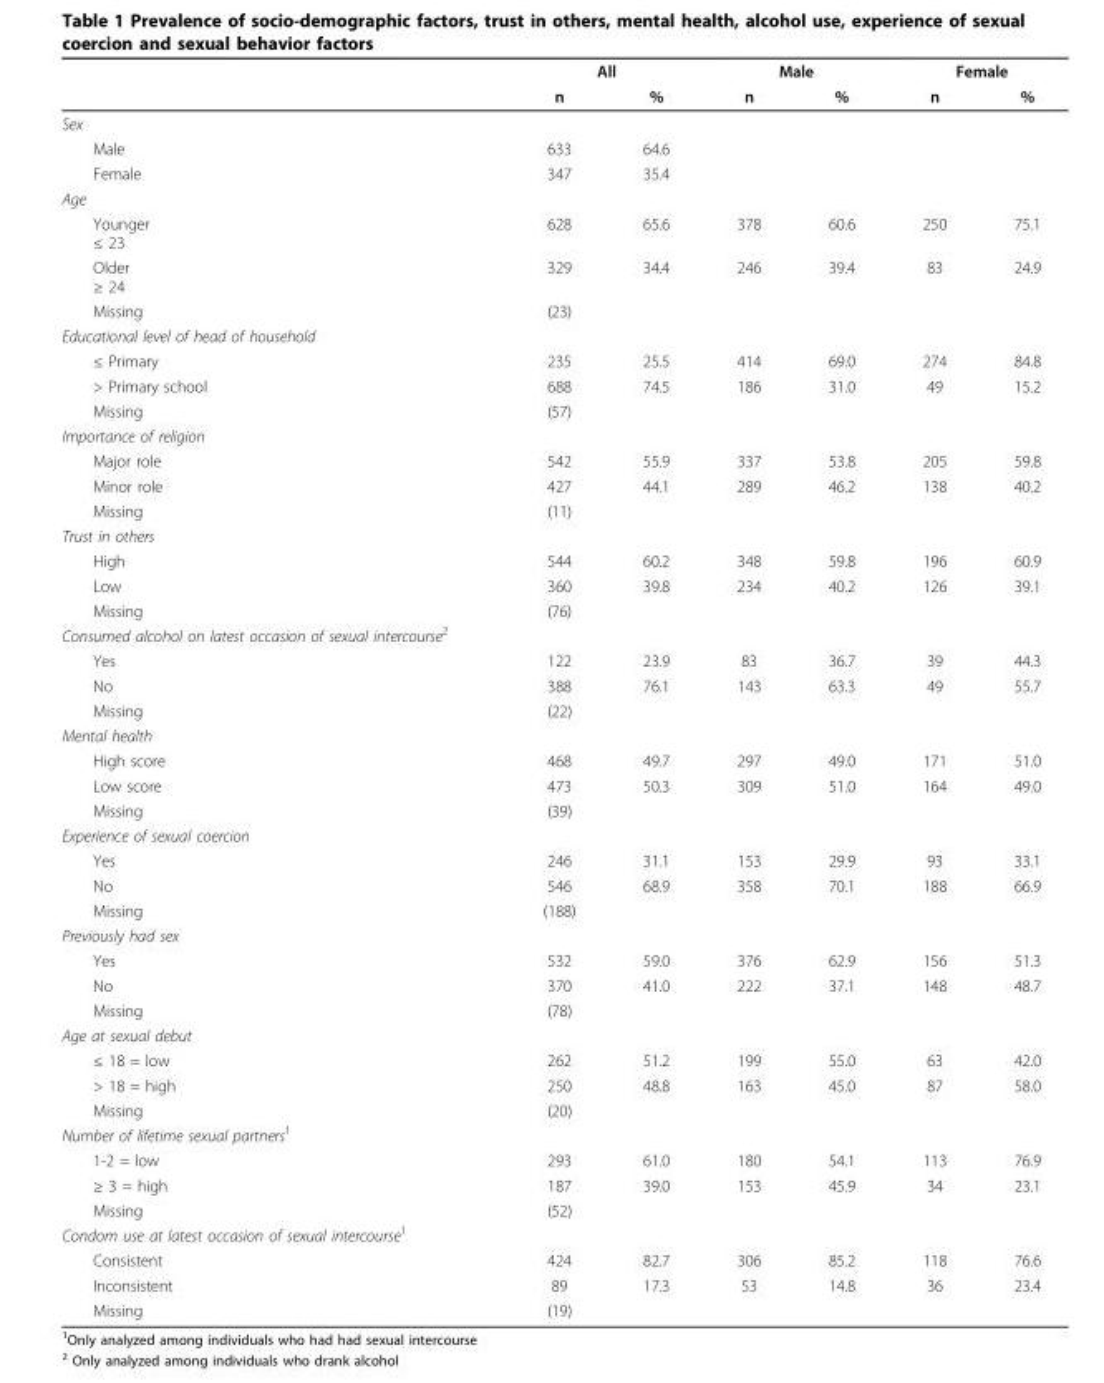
<table><thead><tr><td rowspan="2"></td><td colspan="2">All</td><td colspan="2">Male</td><td colspan="2">Female</td></tr><tr><td>n</td><td>%</td><td>n</td><td>%</td><td>n</td><td>%</td></tr></thead><tbody><tr><td colspan="7">Sex</td></tr><tr><td>Male</td><td>633</td><td>64.6</td><td></td><td></td><td></td><td></td></tr><tr><td>Female</td><td>347</td><td>35.4</td><td></td><td></td><td></td><td></td></tr><tr><td colspan="7">Age</td></tr><tr><td>Younger ≤ 23</td><td>628</td><td>65.6</td><td>378</td><td>60.6</td><td>250</td><td>75.1</td></tr><tr><td>Older ≥ 24</td><td>329</td><td>34.4</td><td>246</td><td>39.4</td><td>83</td><td>24.9</td></tr><tr><td>Missing</td><td>(23)</td><td></td><td></td><td></td><td></td><td></td></tr><tr><td colspan="7">Educational level of head of household</td></tr><tr><td>≤ Primary</td><td>235</td><td>25.5</td><td>414</td><td>69.0</td><td>274</td><td>84.8</td></tr><tr><td>&gt; Primary school</td><td>688</td><td>74.5</td><td>186</td><td>31.0</td><td>49</td><td>15.2</td></tr><tr><td>Missing</td><td>(57)</td><td></td><td></td><td></td><td></td><td></td></tr><tr><td colspan="7">Importance of religion</td></tr><tr><td>Major role</td><td>542</td><td>55.9</td><td>337</td><td>53.8</td><td>205</td><td>59.8</td></tr><tr><td>Minor role</td><td>427</td><td>44.1</td><td>289</td><td>46.2</td><td>138</td><td>40.2</td></tr><tr><td>Missing</td><td>(11)</td><td></td><td></td><td></td><td></td><td></td></tr><tr><td colspan="7">Trust in others</td></tr><tr><td>High</td><td>544</td><td>60.2</td><td>348</td><td>59.8</td><td>196</td><td>60.9</td></tr><tr><td>Low</td><td>360</td><td>39.8</td><td>234</td><td>40.2</td><td>126</td><td>39.1</td></tr><tr><td>Missing</td><td>(76)</td><td></td><td></td><td></td><td></td><td></td></tr><tr><td colspan="7">Consumed alcohol on latest occasion of sexual intercourse<sup>2</sup></td></tr><tr><td>Yes</td><td>122</td><td>23.9</td><td>83</td><td>36.7</td><td>39</td><td>44.3</td></tr><tr><td>No</td><td>388</td><td>76.1</td><td>143</td><td>63.3</td><td>49</td><td>55.7</td></tr><tr><td>Missing</td><td>(22)</td><td></td><td></td><td></td><td></td><td></td></tr><tr><td colspan="7">Mental health</td></tr><tr><td>High score</td><td>468</td><td>49.7</td><td>297</td><td>49.0</td><td>171</td><td>51.0</td></tr><tr><td>Low score</td><td>473</td><td>50.3</td><td>309</td><td>51.0</td><td>164</td><td>49.0</td></tr><tr><td>Missing</td><td>(39)</td><td></td><td></td><td></td><td></td><td></td></tr><tr><td colspan="7">Experience of sexual coercion</td></tr><tr><td>Yes</td><td>246</td><td>31.1</td><td>153</td><td>29.9</td><td>93</td><td>33.1</td></tr><tr><td>No</td><td>546</td><td>68.9</td><td>358</td><td>70.1</td><td>188</td><td>66.9</td></tr><tr><td>Missing</td><td>(188)</td><td></td><td></td><td></td><td></td><td></td></tr><tr><td colspan="7">Previously had sex</td></tr><tr><td>Yes</td><td>532</td><td>59.0</td><td>376</td><td>62.9</td><td>156</td><td>51.3</td></tr><tr><td>No</td><td>370</td><td>41.0</td><td>222</td><td>37.1</td><td>148</td><td>48.7</td></tr><tr><td>Missing</td><td>(78)</td><td></td><td></td><td></td><td></td><td></td></tr><tr><td colspan="7">Age at sexual debut</td></tr><tr><td>≤ 18 = low</td><td>262</td><td>51.2</td><td>199</td><td>55.0</td><td>63</td><td>42.0</td></tr><tr><td>&gt; 18 = high</td><td>250</td><td>48.8</td><td>163</td><td>45.0</td><td>87</td><td>58.0</td></tr><tr><td>Missing</td><td>(20)</td><td></td><td></td><td></td><td></td><td></td></tr><tr><td colspan="7">Number of lifetime sexual partners<sup>1</sup></td></tr><tr><td>1-2 = low</td><td>293</td><td>61.0</td><td>180</td><td>54.1</td><td>113</td><td>76.9</td></tr><tr><td>≥ 3 = high</td><td>187</td><td>39.0</td><td>153</td><td>45.9</td><td>34</td><td>23.1</td></tr><tr><td>Missing</td><td>(52)</td><td></td><td></td><td></td><td></td><td></td></tr><tr><td colspan="7">Condom use at latest occasion of sexual intercourse<sup>1</sup></td></tr><tr><td>Consistent</td><td>424</td><td>82.7</td><td>306</td><td>85.2</td><td>118</td><td>76.6</td></tr><tr><td>Inconsistent</td><td>89</td><td>17.3</td><td>53</td><td>14.8</td><td>36</td><td>23.4</td></tr><tr><td>Missing</td><td>(19)</td><td></td><td></td><td></td><td></td><td></td></tr></tbody></table>